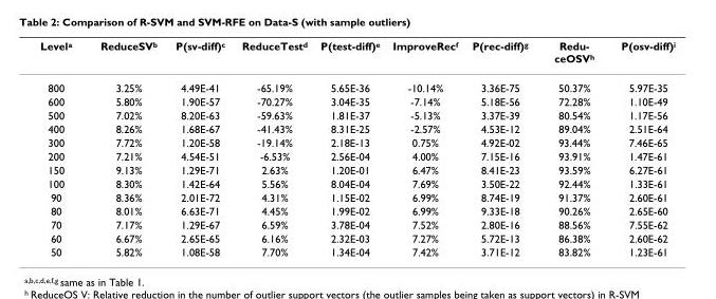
<table><thead><tr><td>Levela</td><td>ReduceSVb</td><td>P(sv-diff)c</td><td>ReduceTestd</td><td>P(test-diff)e</td><td>ImproveRecf</td><td>P(rec-diff)g</td><td>Redu- ceOSVh</td><td>P(osv-diff)i</td></tr></thead><tbody><tr><td>800</td><td>3.25%</td><td>4.49E-41</td><td>-65.19%</td><td>5.65E-36</td><td>-10.14%</td><td>3.36E-75</td><td>50.37%</td><td>5.97E-35</td></tr><tr><td>600</td><td>5.80%</td><td>1.90E-57</td><td>-70.27%</td><td>3.04E-35</td><td>-7.14%</td><td>5.18E-56</td><td>72.28%</td><td>1.10E-49</td></tr><tr><td>500</td><td>7.02%</td><td>8.20E-63</td><td>-59.63%</td><td>1.81E-37</td><td>-5.13%</td><td>3.37E-39</td><td>80.54%</td><td>1.17E-56</td></tr><tr><td>400</td><td>8.26%</td><td>1.68E-67</td><td>-41.43%</td><td>8.31E-25</td><td>-2.57%</td><td>4.53E-12</td><td>89.04%</td><td>2.51E-64</td></tr><tr><td>300</td><td>7.72%</td><td>1.20E-58</td><td>-19.14%</td><td>2.18E-13</td><td>0.75%</td><td>4.92E-02</td><td>93.44%</td><td>7.46E-65</td></tr><tr><td>200</td><td>7.21%</td><td>4.54E-51</td><td>-6.53%</td><td>2.56E-04</td><td>4.00%</td><td>7.15E-16</td><td>93.91%</td><td>1.47E-61</td></tr><tr><td>150</td><td>9.13%</td><td>1.29E-71</td><td>2.63%</td><td>1.20E-01</td><td>6.47%</td><td>8.41E-23</td><td>93.59%</td><td>6.27E-61</td></tr><tr><td>100</td><td>8.30%</td><td>1.42E-64</td><td>5.56%</td><td>8.04E-04</td><td>7.69%</td><td>3.50E-22</td><td>92.44%</td><td>1.33E-61</td></tr><tr><td>90</td><td>8.36%</td><td>2.01E-72</td><td>4.31%</td><td>1.15E-02</td><td>6.99%</td><td>8.74E-19</td><td>91.37%</td><td>2.60E-61</td></tr><tr><td>80</td><td>8.01%</td><td>6.63E-71</td><td>4.45%</td><td>1.99E-02</td><td>6.99%</td><td>9.33E-18</td><td>90.26%</td><td>2.65E-60</td></tr><tr><td>70</td><td>7.17%</td><td>1.29E-67</td><td>6.59%</td><td>3.78E-04</td><td>7.52%</td><td>2.80E-16</td><td>88.56%</td><td>7.55E-62</td></tr><tr><td>60</td><td>6.67%</td><td>2.65E-65</td><td>6.16%</td><td>2.32E-03</td><td>7.27%</td><td>5.72E-13</td><td>86.38%</td><td>2.60E-62</td></tr><tr><td>50</td><td>5.82%</td><td>1.08E-58</td><td>7.70%</td><td>1.34E-04</td><td>7.42%</td><td>3.71E-12</td><td>83.82%</td><td>1.23E-61</td></tr></tbody></table>